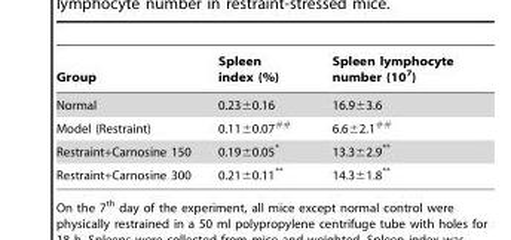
<table><thead><tr><td>Group</td><td>Spleen index (%)</td><td>Spleen lymphocyte number (10<sup>7</sup>)</td></tr></thead><tbody><tr><td>Normal</td><td>0.23±0.16</td><td>16.9±3.6</td></tr><tr><td>Model (Restraint)</td><td>0.11±0.07##</td><td>6.6±2.1##</td></tr><tr><td>Restraint+Carnosine 150</td><td>0.19±0.05*</td><td>13.3±2.9**</td></tr><tr><td>Restraint+Carnosine 300</td><td>0.21±0.11**</td><td>14.3±1.8**</td></tr></tbody></table>